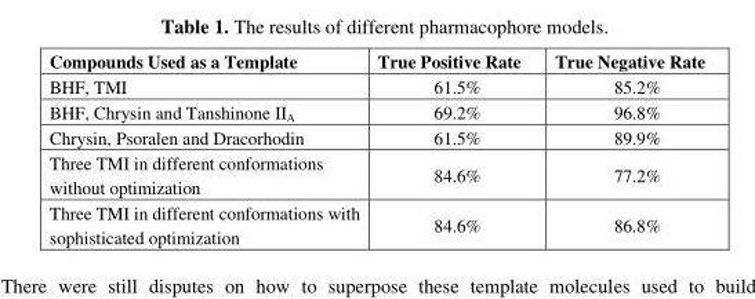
<table><thead><tr><td>Compounds Used as a Template</td><td>True Positive Rate</td><td>True Negative Rate</td></tr></thead><tbody><tr><td>BHF, TMI</td><td>61.5%</td><td>85.2%</td></tr><tr><td>BHF, Chrysin and Tanshinone II<sub>A</sub></td><td>69.2%</td><td>96.8%</td></tr><tr><td>Chrysin, Psoralen and Dracorhodin</td><td>61.5%</td><td>89.9%</td></tr><tr><td>Three TMI in different conformations without optimization</td><td>84.6%</td><td>77.2%</td></tr><tr><td>Three TMI in different conformations with sophisticated optimization</td><td>84.6%</td><td>86.8%</td></tr></tbody></table>